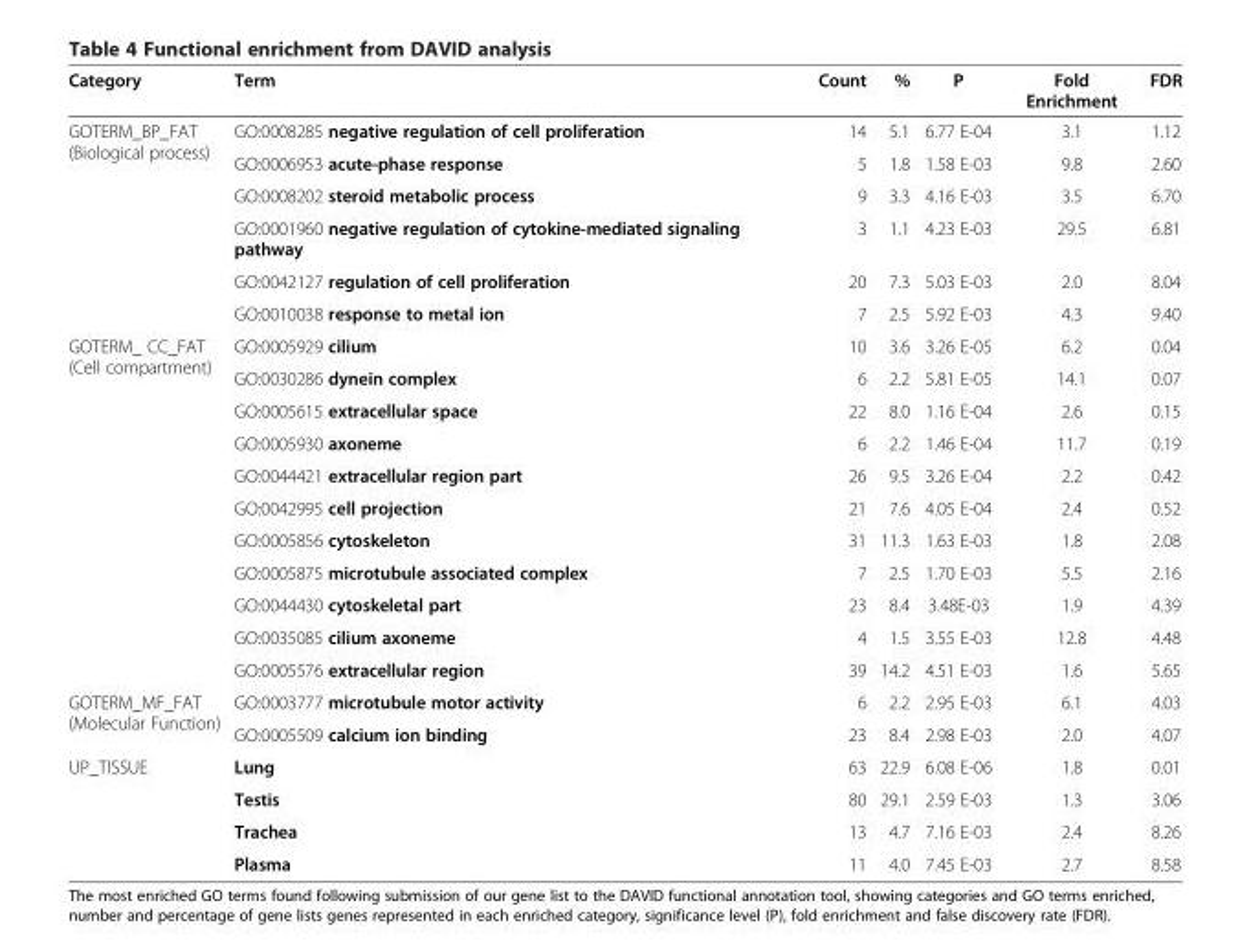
<table><thead><tr><td>Category</td><td>Term</td><td>Count</td><td>%</td><td>P</td><td>Fold Enrichment</td><td>FDR</td></tr></thead><tbody><tr><td rowspan="6">GOTERM_BP_FAT (Biological process)</td><td>GO:0008285 negative regulation of cell proliferation</td><td>14</td><td>5.1</td><td>6.77 E-04</td><td>3.1</td><td>1.12</td></tr><tr><td>GO:0006953 acute-phase response</td><td>5</td><td>1.8</td><td>1.58 E-03</td><td>9.8</td><td>2.60</td></tr><tr><td>GO:0008202 steroid metabolic process</td><td>9</td><td>3.3</td><td>4.16 E-03</td><td>3.5</td><td>6.70</td></tr><tr><td>GO:0001960 negative regulation of cytokine-mediated signaling pathway</td><td>3</td><td>1.1</td><td>4.23 E-03</td><td>29.5</td><td>6.81</td></tr><tr><td>GO:0042127 regulation of cell proliferation</td><td>20</td><td>7.3</td><td>5.03 E-03</td><td>2.0</td><td>8.04</td></tr><tr><td>GO:0010038 response to metal ion</td><td>7</td><td>2.5</td><td>5.92 E-03</td><td>4.3</td><td>9.40</td></tr><tr><td rowspan="11">GOTERM_ CC_FAT (Cell compartment)</td><td>GO:0005929 cilium</td><td>10</td><td>3.6</td><td>3.26 E-05</td><td>6.2</td><td>0.04</td></tr><tr><td>GO:0030286 dynein complex</td><td>6</td><td>2.2</td><td>5.81 E-05</td><td>14.1</td><td>0.07</td></tr><tr><td>GO:0005615 extracellular space</td><td>22</td><td>8.0</td><td>1.16 E-04</td><td>2.6</td><td>0.15</td></tr><tr><td>GO:0005930 axoneme</td><td>6</td><td>2.2</td><td>1.46 E-04</td><td>11.7</td><td>0.19</td></tr><tr><td>GO:0044421 extracellular region part</td><td>26</td><td>9.5</td><td>3.26 E-04</td><td>2.2</td><td>0.42</td></tr><tr><td>GO:0042995 cell projection</td><td>21</td><td>7.6</td><td>4.05 E-04</td><td>2.4</td><td>0.52</td></tr><tr><td>GO:0005856 cytoskeleton</td><td>31</td><td>11.3</td><td>1.63 E-03</td><td>1.8</td><td>2.08</td></tr><tr><td>GO:0005875 microtubule associated complex</td><td>7</td><td>2.5</td><td>1.70 E-03</td><td>5.5</td><td>2.16</td></tr><tr><td>GO:0044430 cytoskeletal part</td><td>23</td><td>8.4</td><td>3.48E-03</td><td>1.9</td><td>4.39</td></tr><tr><td>GO:0035085 cilium axoneme</td><td>4</td><td>1.5</td><td>3.55 E-03</td><td>12.8</td><td>4.48</td></tr><tr><td>GO:0005576 extracellular region</td><td>39</td><td>14.2</td><td>4.51 E-03</td><td>1.6</td><td>5.65</td></tr><tr><td rowspan="2">GOTERM_MF_FAT (Molecular Function)</td><td>GO:0003777 microtubule motor activity</td><td>6</td><td>2.2</td><td>2.95 E-03</td><td>6.1</td><td>4.03</td></tr><tr><td>GO:0005509 calcium ion binding</td><td>23</td><td>8.4</td><td>2.98 E-03</td><td>2.0</td><td>4.07</td></tr><tr><td rowspan="4">UP_TISSUE</td><td>Lung</td><td>63</td><td>22.9</td><td>6.08 E-06</td><td>1.8</td><td>0.01</td></tr><tr><td>Testis</td><td>80</td><td>29.1</td><td>2.59 E-03</td><td>1.3</td><td>3.06</td></tr><tr><td>Trachea</td><td>13</td><td>4.7</td><td>7.16 E-03</td><td>2.4</td><td>8.26</td></tr><tr><td>Plasma</td><td>11</td><td>4.0</td><td>7.45 E-03</td><td>2.7</td><td>8.58</td></tr></tbody></table>